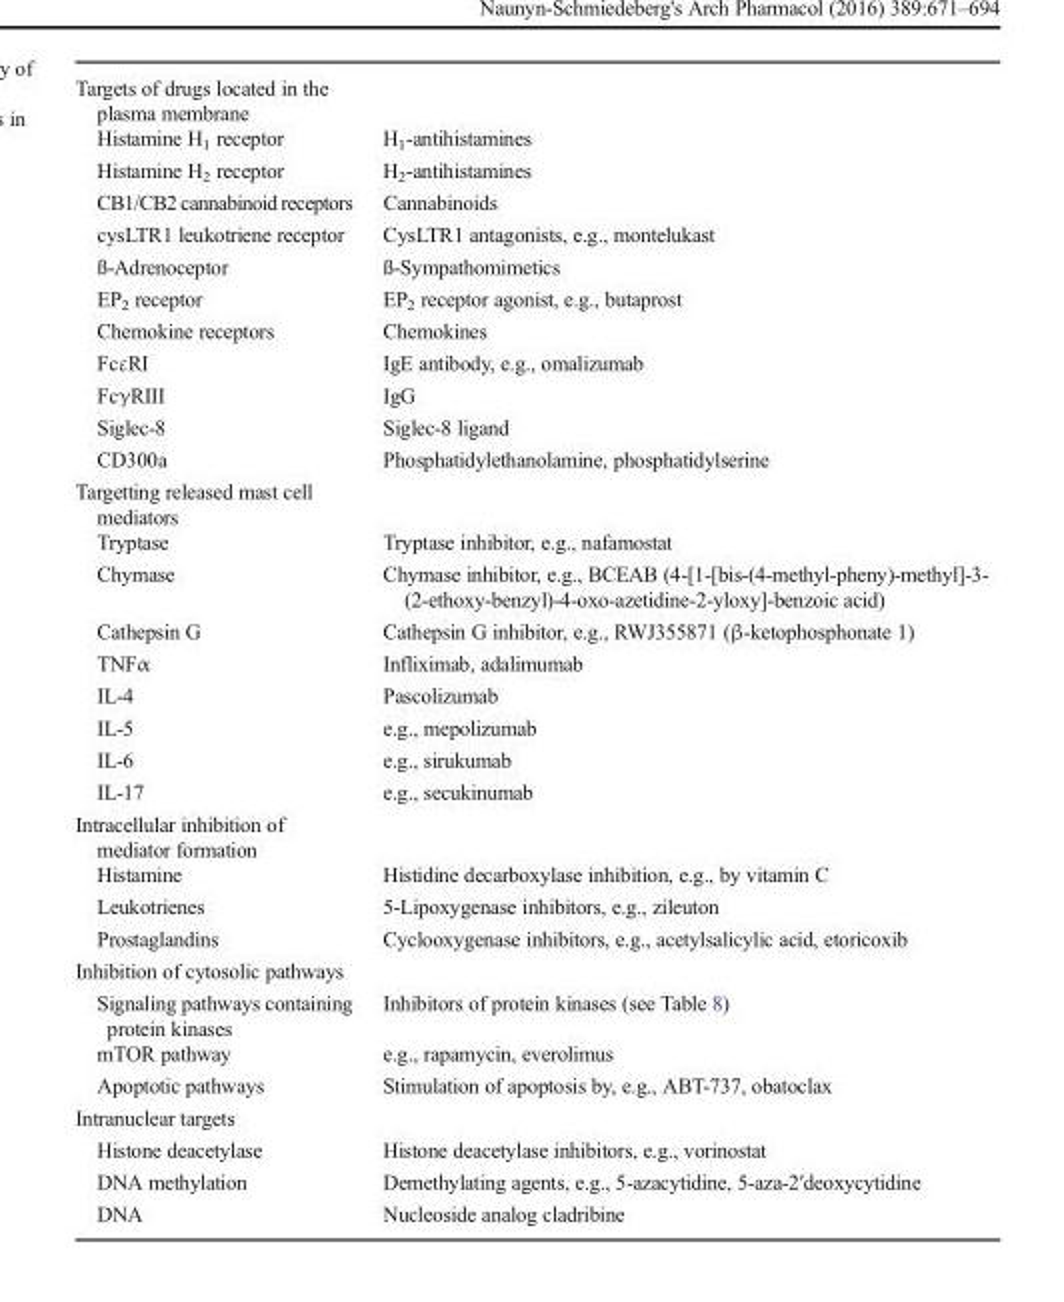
<table><tbody><tr><td colspan="2">Targets of drugs located in the plasma membrane</td></tr><tr><td>Histamine H<sub>1</sub> receptor</td><td>H<sub>1</sub>-antihistamines</td></tr><tr><td>Histamine H<sub>2</sub> receptor</td><td>H<sub>2</sub>-antihistamines</td></tr><tr><td>CB1/CB2 cannabinoid receptors</td><td>Cannabinoids</td></tr><tr><td>cysLTR1 leukotriene receptor</td><td>CysLTR1 antagonists, e.g., montelukast</td></tr><tr><td>ß-Adrenoceptor</td><td>ß-Sympathomimetics</td></tr><tr><td>EP<sub>2</sub> receptor</td><td>EP<sub>2</sub> receptor agonist, e.g., butaprost</td></tr><tr><td>Chemokine receptors</td><td>Chemokines</td></tr><tr><td>FcεRI</td><td>IgE antibody, e.g., omalizumab</td></tr><tr><td>FcγRIII</td><td>IgG</td></tr><tr><td>Siglec-8</td><td>Siglec-8 ligand</td></tr><tr><td>CD300a</td><td>Phosphatidylethanolamine, phosphatidylserine</td></tr><tr><td colspan="2">Targetting released mast cell mediators</td></tr><tr><td>Tryptase</td><td>Tryptase inhibitor, e.g., nafamostat</td></tr><tr><td>Chymase</td><td>Chymase inhibitor, e.g., BCEAB (4-[1-[bis-(4-methyl-pheny)-methyl]-3- (2-ethoxy-benzyl)-4-oxo-azetidine-2-yloxy]-benzoic acid)</td></tr><tr><td>Cathepsin G</td><td>Cathepsin G inhibitor, e.g., RWJ355871 (β-ketophosphonate 1)</td></tr><tr><td>TNFα</td><td>Infliximab, adalimumab</td></tr><tr><td>IL-4</td><td>Pascolizumab</td></tr><tr><td>IL-5</td><td>e.g., mepolizumab</td></tr><tr><td>IL-6</td><td>e.g., sirukumab</td></tr><tr><td>IL-17</td><td>e.g., secukinumab</td></tr><tr><td colspan="2">Intracellular inhibition of mediator formation</td></tr><tr><td>Histamine</td><td>Histidine decarboxylase inhibition, e.g., by vitamin C</td></tr><tr><td>Leukotrienes</td><td>5-Lipoxygenase inhibitors, e.g., zileuton</td></tr><tr><td>Prostaglandins</td><td>Cyclooxygenase inhibitors, e.g., acetylsalicylic acid, etoricoxib</td></tr><tr><td colspan="2">Inhibition of cytosolic pathways</td></tr><tr><td>Signaling pathways containing protein kinases</td><td>Inhibitors of protein kinases (see Table 8)</td></tr><tr><td>mTOR pathway</td><td>e.g., rapamycin, everolimus</td></tr><tr><td>Apoptotic pathways</td><td>Stimulation of apoptosis by, e.g., ABT-737, obatoclax</td></tr><tr><td colspan="2">Intranuclear targets</td></tr><tr><td>Histone deacetylase</td><td>Histone deacetylase inhibitors, e.g., vorinostat</td></tr><tr><td>DNA methylation</td><td>Demethylating agents, e.g., 5-azacytidine, 5-aza-2′deoxycytidine</td></tr><tr><td>DNA</td><td>Nucleoside analog cladribine</td></tr></tbody></table>